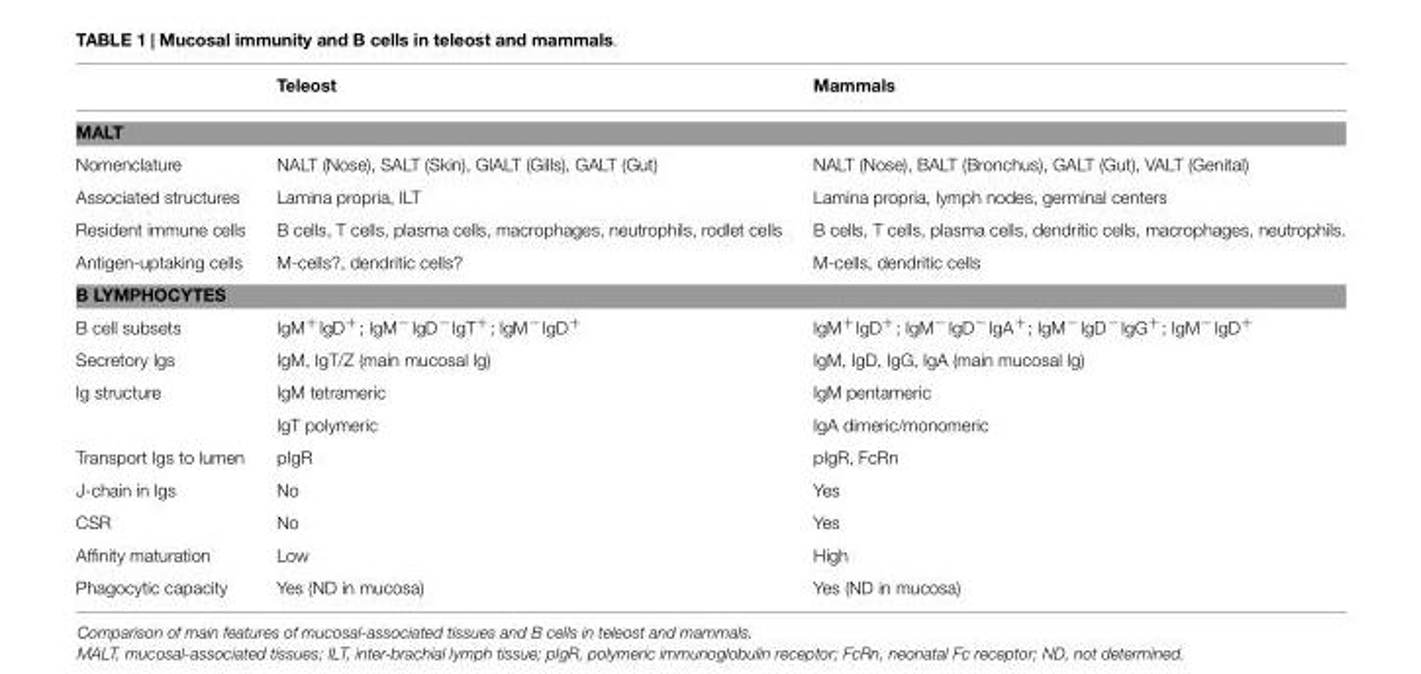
<table><thead><tr><td></td><td>Teleost</td><td>Mammals</td></tr></thead><tbody><tr><td colspan="3">MALT</td></tr><tr><td>Nomenclature</td><td>NALT (Nose), SALT (Skin), GIALT (Gills), GALT (Gut)</td><td>NALT (Nose), BALT (Bronchus), GALT (Gut), VALT (Genital)</td></tr><tr><td>Associated structures</td><td>Lamina propria, ILT</td><td>Lamina propria, lymph nodes, germinal centers</td></tr><tr><td>Resident immune cells</td><td>B cells, T cells, plasma cells, macrophages, neutrophils, rodlet cells</td><td>B cells, T cells, plasma cells, dendritic cells, macrophages, neutrophils.</td></tr><tr><td>Antigen-uptaking cells</td><td>M-cells?, dendritic cells?</td><td>M-cells, dendritic cells</td></tr><tr><td colspan="3">B LYMPHOCYTES</td></tr><tr><td>B cell subsets</td><td>IgM<sup>+</sup>IgD<sup>+</sup>; IgM<sup>−</sup>IgD<sup>−</sup>IgT<sup>+</sup>; IgM<sup>−</sup>IgD<sup>+</sup></td><td>IgM<sup>+</sup>IgD<sup>+</sup>; IgM<sup>−</sup>IgD<sup>−</sup>IgA<sup>+</sup>; IgM<sup>−</sup>IgD<sup>−</sup>IgG<sup>+</sup>; IgM<sup>−</sup>IgD<sup>+</sup></td></tr><tr><td>Secretory Igs</td><td>IgM, IgT/Z (main mucosal Ig)</td><td>IgM, IgD, IgG, IgA (main mucosal Ig)</td></tr><tr><td rowspan="2">Ig structure</td><td>IgM tetrameric</td><td>IgM pentameric</td></tr><tr><td>IgT polymeric</td><td>IgA dimeric/monomeric</td></tr><tr><td>Transport Igs to lumen</td><td>pIgR</td><td>pIgR, FcRn</td></tr><tr><td>J-chain in Igs</td><td>No</td><td>Yes</td></tr><tr><td>CSR</td><td>No</td><td>Yes</td></tr><tr><td>Affinity maturation</td><td>Low</td><td>High</td></tr><tr><td>Phagocytic capacity</td><td>Yes (ND in mucosa)</td><td>Yes (ND in mucosa)</td></tr></tbody></table>